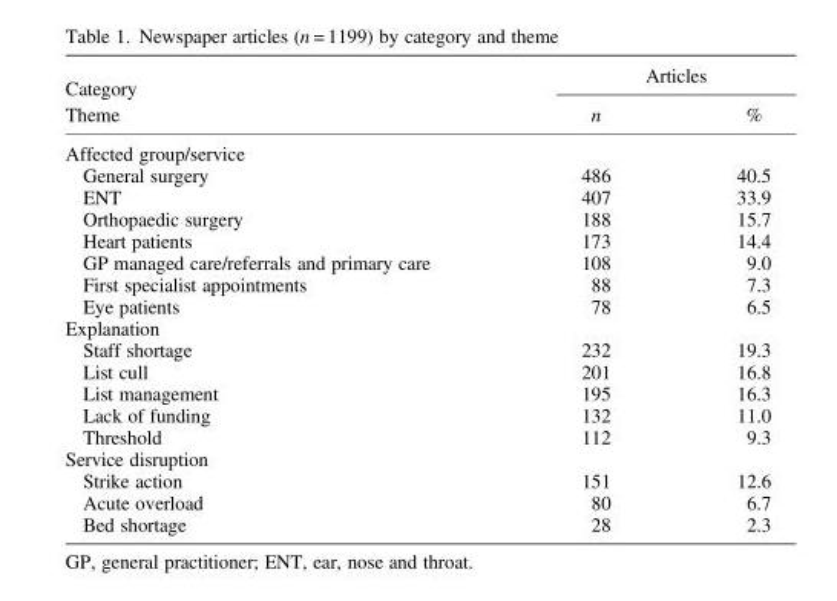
<table><thead><tr><td rowspan="2">Category Theme</td><td colspan="2">Articles</td></tr><tr><td>n</td><td>%</td></tr></thead><tbody><tr><td colspan="3">Affected group/service</td></tr><tr><td>General surgery</td><td>486</td><td>40.5</td></tr><tr><td>ENT</td><td>407</td><td>33.9</td></tr><tr><td>Orthopaedic surgery</td><td>188</td><td>15.7</td></tr><tr><td>Heart patients</td><td>173</td><td>14.4</td></tr><tr><td>GP managed care/referrals and primary care</td><td>108</td><td>9.0</td></tr><tr><td>First specialist appointments</td><td>88</td><td>7.3</td></tr><tr><td>Eye patients</td><td>78</td><td>6.5</td></tr><tr><td colspan="3">Explanation</td></tr><tr><td>Staff shortage</td><td>232</td><td>19.3</td></tr><tr><td>List cull</td><td>201</td><td>16.8</td></tr><tr><td>List management</td><td>195</td><td>16.3</td></tr><tr><td>Lack of funding</td><td>132</td><td>11.0</td></tr><tr><td>Threshold</td><td>112</td><td>9.3</td></tr><tr><td colspan="3">Service disruption</td></tr><tr><td>Strike action</td><td>151</td><td>12.6</td></tr><tr><td>Acute overload</td><td>80</td><td>6.7</td></tr><tr><td>Bed shortage</td><td>28</td><td>2.3</td></tr></tbody></table>